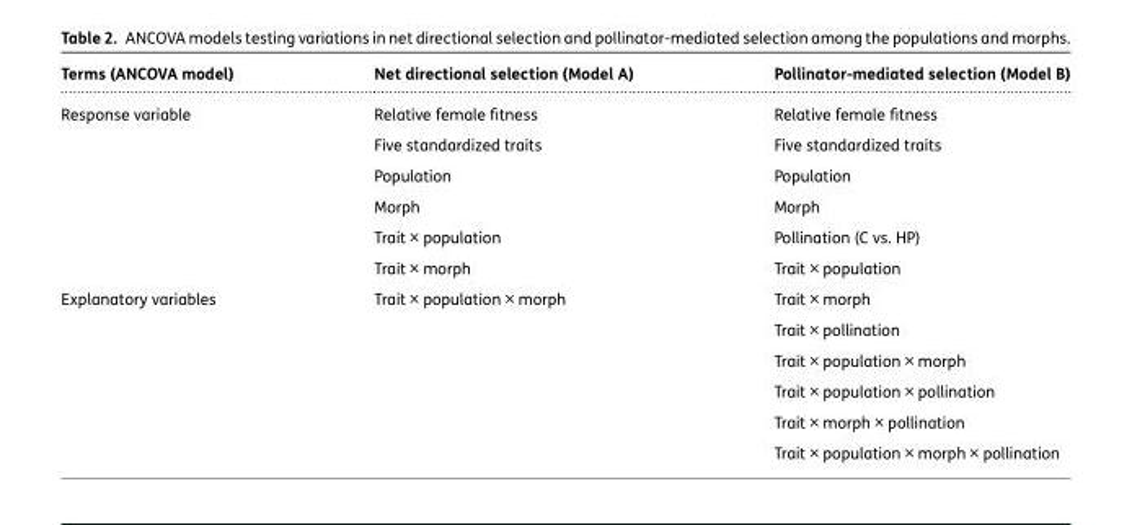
<table><thead><tr><td>Terms (ANCOVA model)</td><td>Net directional selection (Model A)</td><td>Pollinator-mediated selection (Model B)</td></tr></thead><tbody><tr><td rowspan="6">Response variable</td><td>Relative female fitness</td><td>Relative female fitness</td></tr><tr><td>Five standardized traits</td><td>Five standardized traits</td></tr><tr><td>Population</td><td>Population</td></tr><tr><td>Morph</td><td>Morph</td></tr><tr><td>Trait × population</td><td>Pollination (C vs. HP)</td></tr><tr><td>Trait × morph</td><td>Trait × population</td></tr><tr><td rowspan="6">Explanatory variables</td><td>Trait × population × morph</td><td>Trait × morph</td></tr><tr><td></td><td>Trait × pollination</td></tr><tr><td></td><td>Trait × population × morph</td></tr><tr><td></td><td>Trait × population × pollination</td></tr><tr><td></td><td>Trait × morph × pollination</td></tr><tr><td></td><td>Trait × population × morph × pollination</td></tr></tbody></table>